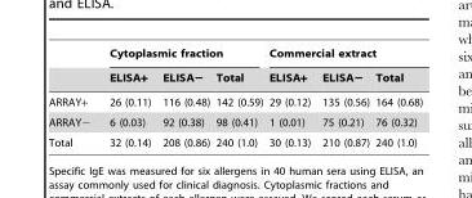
<table><thead><tr><td rowspan="2"></td><td colspan="3">Cytoplasmic fraction</td><td colspan="3">Commercial extract</td></tr><tr><td>ELISA+</td><td>ELISA−</td><td>Total</td><td>ELISA+</td><td>ELISA−</td><td>Total</td></tr></thead><tbody><tr><td>ARRAY+</td><td>26 (0.11)</td><td>116 (0.48)</td><td>142 (0.59)</td><td>29 (0.12)</td><td>135 (0.56)</td><td>164 (0.68)</td></tr><tr><td>ARRAY−</td><td>6 (0.03)</td><td>92 (0.38)</td><td>98 (0.41)</td><td>1 (0.01)</td><td>75 (0.21)</td><td>76 (0.32)</td></tr><tr><td>Total</td><td>32 (0.14)</td><td>208 (0.86)</td><td>240 (1.0)</td><td>30 (0.13)</td><td>210 (0.87)</td><td>240 (1.0)</td></tr></tbody></table>